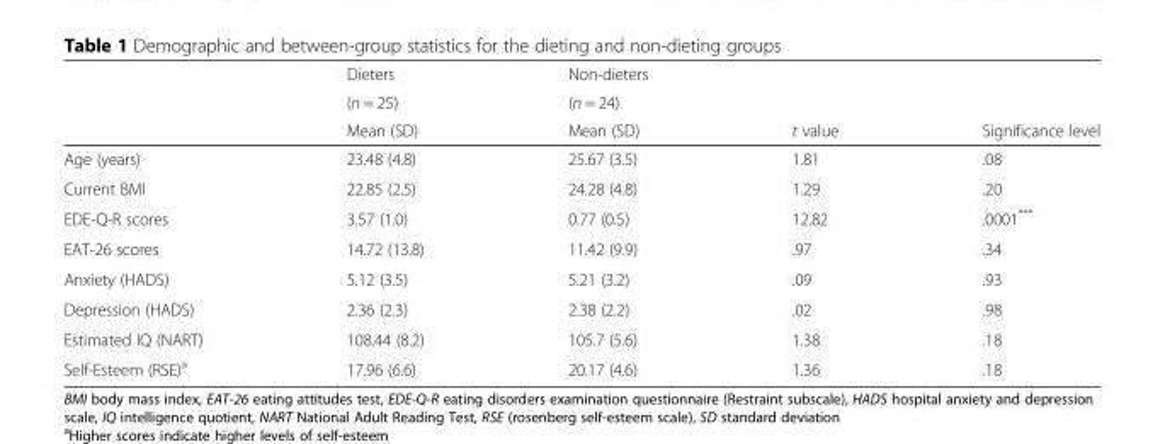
<table><thead><tr><td rowspan="3"></td><td rowspan="3">Dieters (n = 25) Mean (SD)</td><td rowspan="3">Non-dieters (n = 24) Mean (SD)</td><td rowspan="3">t value</td><td rowspan="3">Significance level</td></tr><tr></tr><tr></tr></thead><tbody><tr><td>Age (years)</td><td>23.48 (4.8)</td><td>25.67 (3.5)</td><td>1.81</td><td>.08</td></tr><tr><td>Current BMI</td><td>22.85 (2.5)</td><td>24.28 (4.8)</td><td>1.29</td><td>.20</td></tr><tr><td>EDE-Q-R scores</td><td>3.57 (1.0)</td><td>0.77 (0.5)</td><td>12.82</td><td>.0001***</td></tr><tr><td>EAT-26 scores</td><td>14.72 (13.8)</td><td>11.42 (9.9)</td><td>.97</td><td>.34</td></tr><tr><td>Anxiety (HADS)</td><td>5.12 (3.5)</td><td>5.21 (3.2)</td><td>.09</td><td>.93</td></tr><tr><td>Depression (HADS)</td><td>2.36 (2.3)</td><td>2.38 (2.2)</td><td>.02</td><td>.98</td></tr><tr><td>Estimated IQ (NART)</td><td>108.44 (8.2)</td><td>105.7 (5.6)</td><td>1.38</td><td>.18</td></tr><tr><td>Self-Esteem (RSE)<sup>a</sup></td><td>17.96 (6.6)</td><td>20.17 (4.6)</td><td>1.36</td><td>.18</td></tr></tbody></table>